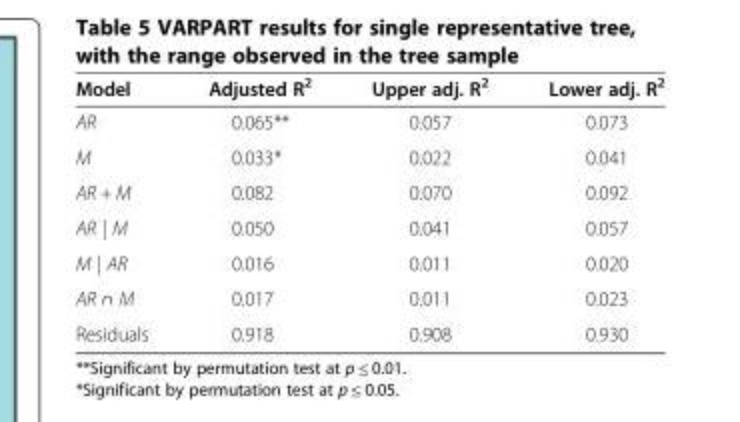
<table><thead><tr><td>Model</td><td>Adjusted R<sup>2</sup></td><td>Upper adj. R<sup>2</sup></td><td>Lower adj. R<sup>2</sup></td></tr></thead><tbody><tr><td>AR</td><td>0.065**</td><td>0.057</td><td>0.073</td></tr><tr><td>M</td><td>0.033*</td><td>0.022</td><td>0.041</td></tr><tr><td>AR + M</td><td>0.082</td><td>0.070</td><td>0.092</td></tr><tr><td>AR | M</td><td>0.050</td><td>0.041</td><td>0.057</td></tr><tr><td>M | AR</td><td>0.016</td><td>0.011</td><td>0.020</td></tr><tr><td>AR ∩ M</td><td>0.017</td><td>0.011</td><td>0.023</td></tr><tr><td>Residuals</td><td>0.918</td><td>0.908</td><td>0.930</td></tr></tbody></table>